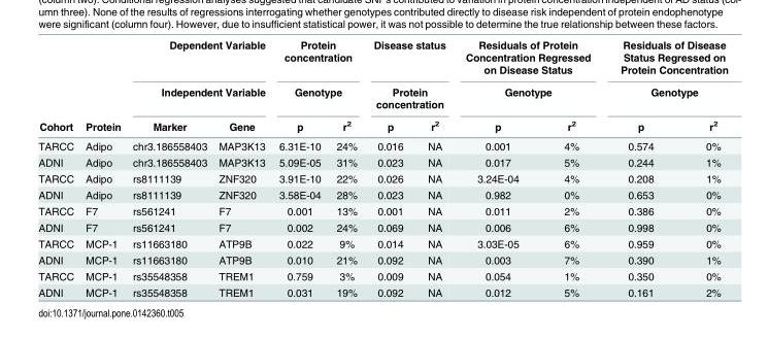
<table><thead><tr><td rowspan="3">Cohort</td><td rowspan="3">Protein</td><td rowspan="2" colspan="2">Dependent Variable Independent Variable</td><td rowspan="2" colspan="2">Protein concentration Genotype</td><td rowspan="2" colspan="2">Disease status Protein concentration</td><td rowspan="2" colspan="2">Residuals of Protein Concentration Regressed on Disease Status Genotype</td><td rowspan="2" colspan="2">Residuals of Disease Status Regressed on Protein Concentration Genotype</td></tr><tr></tr><tr><td>Marker</td><td>Gene</td><td>p</td><td>r<sup>2</sup></td><td>p</td><td>r<sup>2</sup></td><td>p</td><td>r<sup>2</sup></td><td>p</td><td>r<sup>2</sup></td></tr></thead><tbody><tr><td>TARCC</td><td>Adipo</td><td>chr3.186558403</td><td>MAP3K13</td><td>6.31E-10</td><td>24%</td><td>0.016</td><td>NA</td><td>0.001</td><td>4%</td><td>0.574</td><td>0%</td></tr><tr><td>ADNI</td><td>Adipo</td><td>chr3.186558403</td><td>MAP3K13</td><td>5.09E-05</td><td>31%</td><td>0.023</td><td>NA</td><td>0.017</td><td>5%</td><td>0.244</td><td>1%</td></tr><tr><td>TARCC</td><td>Adipo</td><td>rs8111139</td><td>ZNF320</td><td>3.91E-10</td><td>22%</td><td>0.026</td><td>NA</td><td>3.24E-04</td><td>4%</td><td>0.208</td><td>1%</td></tr><tr><td>ADNI</td><td>Adipo</td><td>rs8111139</td><td>ZNF320</td><td>3.58E-04</td><td>28%</td><td>0.023</td><td>NA</td><td>0.982</td><td>0%</td><td>0.653</td><td>0%</td></tr><tr><td>TARCC</td><td>F7</td><td>rs561241</td><td>F7</td><td>0.001</td><td>13%</td><td>0.001</td><td>NA</td><td>0.011</td><td>2%</td><td>0.386</td><td>0%</td></tr><tr><td>ADNI</td><td>F7</td><td>rs561241</td><td>F7</td><td>0.002</td><td>24%</td><td>0.069</td><td>NA</td><td>0.006</td><td>6%</td><td>0.998</td><td>0%</td></tr><tr><td>TARCC</td><td>MCP-1</td><td>rs11663180</td><td>ATP9B</td><td>0.022</td><td>9%</td><td>0.014</td><td>NA</td><td>3.03E-05</td><td>6%</td><td>0.959</td><td>0%</td></tr><tr><td>ADNI</td><td>MCP-1</td><td>rs11663180</td><td>ATP9B</td><td>0.010</td><td>21%</td><td>0.092</td><td>NA</td><td>0.003</td><td>7%</td><td>0.390</td><td>1%</td></tr><tr><td>TARCC</td><td>MCP-1</td><td>rs35548358</td><td>TREM1</td><td>0.759</td><td>3%</td><td>0.009</td><td>NA</td><td>0.054</td><td>1%</td><td>0.350</td><td>0%</td></tr><tr><td>ADNI</td><td>MCP-1</td><td>rs35548358</td><td>TREM1</td><td>0.031</td><td>19%</td><td>0.092</td><td>NA</td><td>0.012</td><td>5%</td><td>0.161</td><td>2%</td></tr></tbody></table>